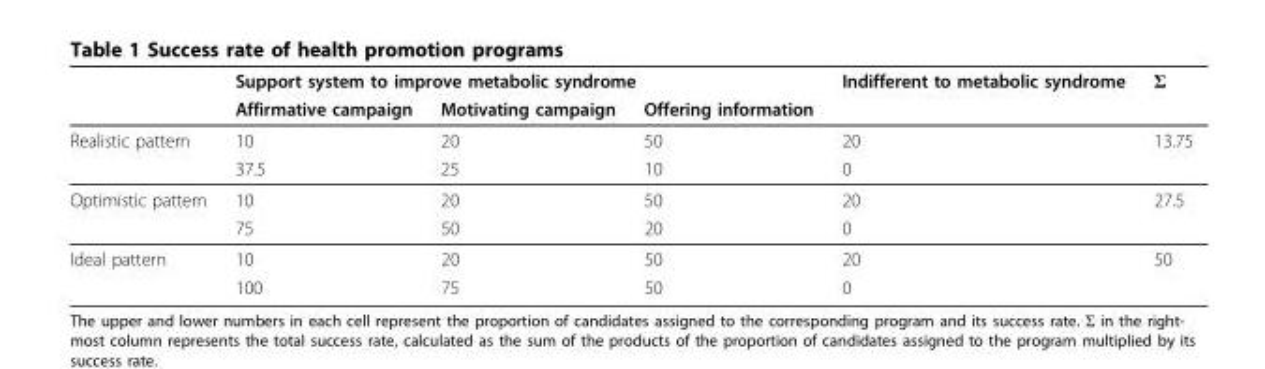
<table><thead><tr><td rowspan="2"></td><td colspan="3">Support system to improve metabolic syndrome</td><td rowspan="2">Indifferent to metabolic syndrome</td><td rowspan="2">Σ</td></tr><tr><td>Affirmative campaign</td><td>Motivating campaign</td><td>Offering information</td></tr></thead><tbody><tr><td rowspan="2">Realistic pattern</td><td>10</td><td>20</td><td>50</td><td>20</td><td>13.75</td></tr><tr><td>37.5</td><td>25</td><td>10</td><td>0</td><td></td></tr><tr><td rowspan="2">Optimistic pattern</td><td>10</td><td>20</td><td>50</td><td>20</td><td>27.5</td></tr><tr><td>75</td><td>50</td><td>20</td><td>0</td><td></td></tr><tr><td rowspan="2">Ideal pattern</td><td>10</td><td>20</td><td>50</td><td>20</td><td>50</td></tr><tr><td>100</td><td>75</td><td>50</td><td>0</td><td></td></tr></tbody></table>